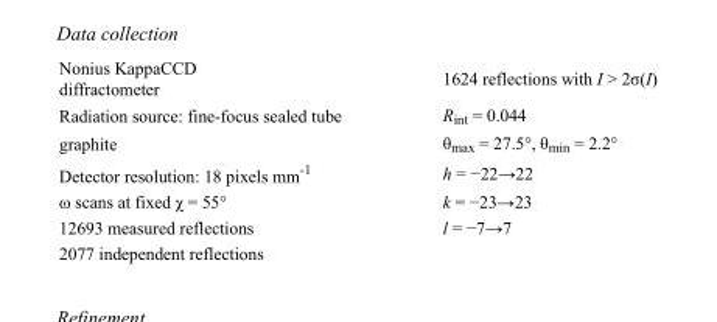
<table><tbody><tr><td>Nonius KappaCCD diffractometer</td><td>1624 reflections with I &gt; 2σ(I)</td></tr><tr><td>Radiation source: fine-focus sealed tube</td><td>R<sub>int</sub> = 0.044</td></tr><tr><td>graphite</td><td>θ<sub>max</sub> = 27.5°, θ<sub>min</sub> = 2.2°</td></tr><tr><td>Detector resolution: 18 pixels mm<sup>-1</sup></td><td>h = −22→22</td></tr><tr><td>ω scans at fixed χ = 55°</td><td>k = −23→23</td></tr><tr><td>12693 measured reflections</td><td>l = −7→7</td></tr><tr><td>2077 independent reflections</td><td></td></tr></tbody></table>